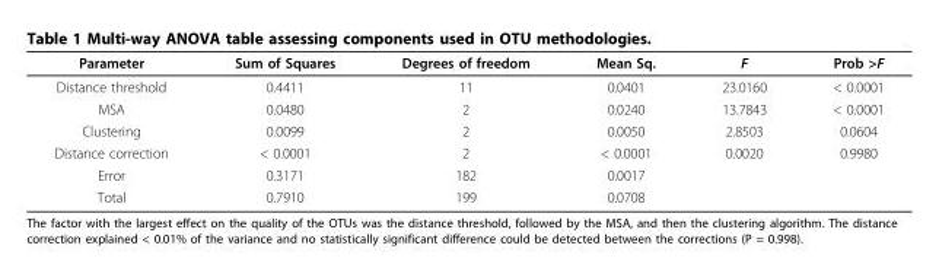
<table><thead><tr><td>Parameter</td><td>Sum of Squares</td><td>Degrees of freedom</td><td>Mean Sq.</td><td>F</td><td>Prob &gt;F</td></tr></thead><tbody><tr><td>Distance threshold</td><td>0.4411</td><td>11</td><td>0.0401</td><td>23.0160</td><td>&lt; 0.0001</td></tr><tr><td>MSA</td><td>0.0480</td><td>2</td><td>0.0240</td><td>13.7843</td><td>&lt; 0.0001</td></tr><tr><td>Clustering</td><td>0.0099</td><td>2</td><td>0.0050</td><td>2.8503</td><td>0.0604</td></tr><tr><td>Distance correction</td><td>&lt; 0.0001</td><td>2</td><td>&lt; 0.0001</td><td>0.0020</td><td>0.9980</td></tr><tr><td>Error</td><td>0.3171</td><td>182</td><td>0.0017</td><td></td><td></td></tr><tr><td>Total</td><td>0.7910</td><td>199</td><td>0.0708</td><td></td><td></td></tr></tbody></table>